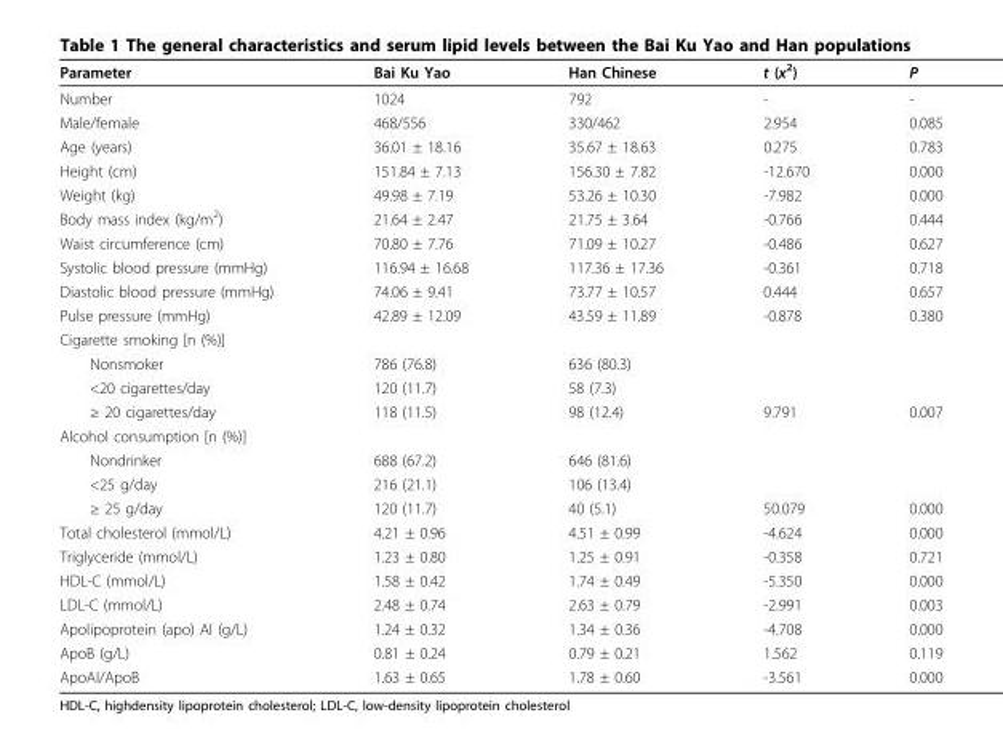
<table><thead><tr><td>Parameter</td><td>Bai Ku Yao</td><td>Han Chinese</td><td>t (x<sup>2</sup>)</td><td>P</td></tr></thead><tbody><tr><td>Number</td><td>1024</td><td>792</td><td>-</td><td>-</td></tr><tr><td>Male/female</td><td>468/556</td><td>330/462</td><td>2.954</td><td>0.085</td></tr><tr><td>Age (years)</td><td>36.01 ± 18.16</td><td>35.67 ± 18.63</td><td>0.275</td><td>0.783</td></tr><tr><td>Height (cm)</td><td>151.84 ± 7.13</td><td>156.30 ± 7.82</td><td>-12.670</td><td>0.000</td></tr><tr><td>Weight (kg)</td><td>49.98 ± 7.19</td><td>53.26 ± 10.30</td><td>-7.982</td><td>0.000</td></tr><tr><td>Body mass index (kg/m<sup>2</sup>)</td><td>21.64 ± 2.47</td><td>21.75 ± 3.64</td><td>-0.766</td><td>0.444</td></tr><tr><td>Waist circumference (cm)</td><td>70.80 ± 7.76</td><td>71.09 ± 10.27</td><td>-0.486</td><td>0.627</td></tr><tr><td>Systolic blood pressure (mmHg)</td><td>116.94 ± 16.68</td><td>117.36 ± 17.36</td><td>-0.361</td><td>0.718</td></tr><tr><td>Diastolic blood pressure (mmHg)</td><td>74.06 ± 9.41</td><td>73.77 ± 10.57</td><td>0.444</td><td>0.657</td></tr><tr><td>Pulse pressure (mmHg)</td><td>42.89 ± 12.09</td><td>43.59 ± 11.89</td><td>-0.878</td><td>0.380</td></tr><tr><td colspan="5">Cigarette smoking [n (%)]</td></tr><tr><td>Nonsmoker</td><td>786 (76.8)</td><td>636 (80.3)</td><td></td><td></td></tr><tr><td>&lt;20 cigarettes/day</td><td>120 (11.7)</td><td>58 (7.3)</td><td></td><td></td></tr><tr><td>≥ 20 cigarettes/day</td><td>118 (11.5)</td><td>98 (12.4)</td><td>9.791</td><td>0.007</td></tr><tr><td colspan="5">Alcohol consumption [n (%)]</td></tr><tr><td>Nondrinker</td><td>688 (67.2)</td><td>646 (81.6)</td><td></td><td></td></tr><tr><td>&lt;25 g/day</td><td>216 (21.1)</td><td>106 (13.4)</td><td></td><td></td></tr><tr><td>≥ 25 g/day</td><td>120 (11.7)</td><td>40 (5.1)</td><td>50.079</td><td>0.000</td></tr><tr><td>Total cholesterol (mmol/L)</td><td>4.21 ± 0.96</td><td>4.51 ± 0.99</td><td>-4.624</td><td>0.000</td></tr><tr><td>Triglyceride (mmol/L)</td><td>1.23 ± 0.80</td><td>1.25 ± 0.91</td><td>-0.358</td><td>0.721</td></tr><tr><td>HDL-C (mmol/L)</td><td>1.58 ± 0.42</td><td>1.74 ± 0.49</td><td>-5.350</td><td>0.000</td></tr><tr><td>LDL-C (mmol/L)</td><td>2.48 ± 0.74</td><td>2.63 ± 0.79</td><td>-2.991</td><td>0.003</td></tr><tr><td>Apolipoprotein (apo) AI (g/L)</td><td>1.24 ± 0.32</td><td>1.34 ± 0.36</td><td>-4.708</td><td>0.000</td></tr><tr><td>ApoB (g/L)</td><td>0.81 ± 0.24</td><td>0.79 ± 0.21</td><td>1.562</td><td>0.119</td></tr><tr><td>ApoAI/ApoB</td><td>1.63 ± 0.65</td><td>1.78 ± 0.60</td><td>-3.561</td><td>0.000</td></tr></tbody></table>